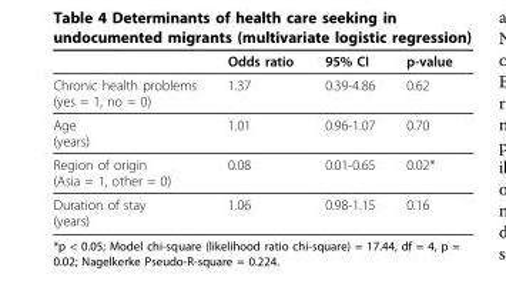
<table><thead><tr><td></td><td>Odds ratio</td><td>95% CI</td><td>p-value</td></tr></thead><tbody><tr><td>Chronic health problems (yes = 1, no = 0)</td><td>1.37</td><td>0.39-4.86</td><td>0.62</td></tr><tr><td>Age (years)</td><td>1.01</td><td>0.96-1.07</td><td>0.70</td></tr><tr><td>Region of origin (Asia = 1, other = 0)</td><td>0.08</td><td>0.01-0.65</td><td>0.02*</td></tr><tr><td>Duration of stay (years)</td><td>1.06</td><td>0.98-1.15</td><td>0.16</td></tr></tbody></table>